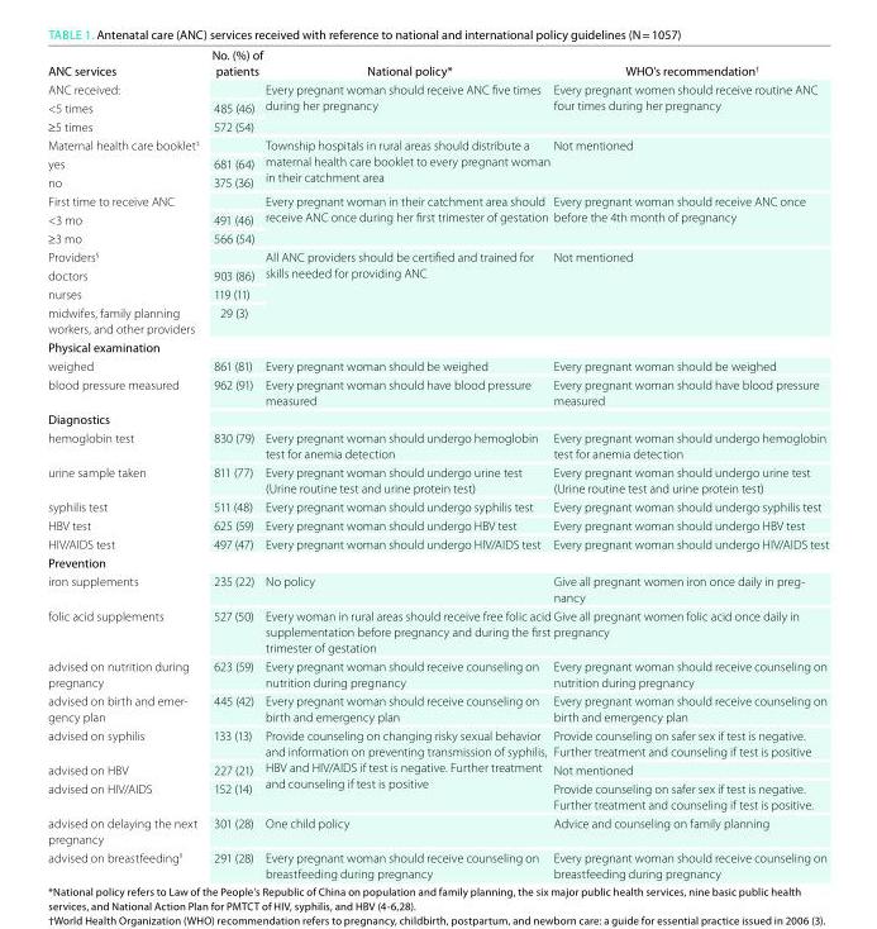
<table><thead><tr><td>aNC services</td><td>No. (%) of patients</td><td>National policy*</td><td>WHo’s recommendation<sup>†</sup></td></tr></thead><tbody><tr><td colspan="2">ANC received:</td><td rowspan="3">Every pregnant woman should receive ANC five times during her pregnancy</td><td rowspan="3">Every pregnant women should receive routine ANC four times during her pregnancy</td></tr><tr><td>&lt;5 times</td><td>485 (46)</td></tr><tr><td>≥5 times</td><td>572 (54)</td></tr><tr><td colspan="2">Maternal health care booklet<sup>‡</sup></td><td rowspan="3">Township hospitals in rural areas should distribute a maternal health care booklet to every pregnant woman in their catchment area</td><td rowspan="3">Not mentioned</td></tr><tr><td>yes</td><td>681 (64)</td></tr><tr><td>no</td><td>375 (36)</td></tr><tr><td colspan="2">First time to receive ANC</td><td rowspan="3">Every pregnant woman in their catchment area should receive ANC once during her first trimester of gestation</td><td rowspan="3">Every pregnant woman should receive ANC once before the 4th month of pregnancy</td></tr><tr><td>&lt;3 mo</td><td>491 (46)</td></tr><tr><td>≥3 mo</td><td>566 (54)</td></tr><tr><td colspan="2">Providers<sup>§</sup></td><td rowspan="4">All ANC providers should be certified and trained for skills needed for providing ANC</td><td rowspan="4">Not mentioned</td></tr><tr><td>doctors</td><td>903 (86)</td></tr><tr><td>nurses</td><td>119 (11)</td></tr><tr><td>midwifes, family planning workers, and other providers</td><td>29 (3)</td></tr><tr><td colspan="4">Physical examination</td></tr><tr><td>weighed</td><td>861 (81)</td><td>Every pregnant woman should be weighed</td><td>Every pregnant woman should be weighed</td></tr><tr><td>blood pressure measured</td><td>962 (91)</td><td>Every pregnant woman should have blood pressure measured</td><td>Every pregnant woman should have blood pressure measured</td></tr><tr><td colspan="4">Diagnostics</td></tr><tr><td>hemoglobin test</td><td>830 (79)</td><td>Every pregnant woman should undergo hemoglobin test for anemia detection</td><td>Every pregnant woman should undergo hemoglobin test for anemia detection</td></tr><tr><td>urine sample taken</td><td>811 (77)</td><td>Every pregnant woman should undergo urine test (Urine routine test and urine protein test)</td><td>Every pregnant woman should undergo urine test (Urine routine test and urine protein test)</td></tr><tr><td>syphilis test</td><td>511 (48)</td><td>Every pregnant woman should undergo syphilis test</td><td>Every pregnant woman should undergo syphilis test</td></tr><tr><td>HBV test</td><td>625 (59)</td><td>Every pregnant woman should undergo HBV test</td><td>Every pregnant woman should undergo HBV test</td></tr><tr><td>HIV/AIDS test</td><td>497 (47)</td><td>Every pregnant woman should undergo HIV/AIDS test</td><td>Every pregnant woman should undergo HIV/AIDS test</td></tr><tr><td colspan="4">Prevention</td></tr><tr><td>iron supplements</td><td>235 (22)</td><td>No policy</td><td>Give all pregnant women iron once daily in preg- nancy</td></tr><tr><td>folic acid supplements</td><td>527 (50)</td><td>Every woman in rural areas should receive free folic acid supplementation before pregnancy and during the first trimester of gestation</td><td>Give all pregnant women folic acid once daily in pregnancy</td></tr><tr><td>advised on nutrition during pregnancy</td><td>623 (59)</td><td>Every pregnant woman should receive counseling on nutrition during pregnancy</td><td>Every pregnant woman should receive counseling on nutrition during pregnancy</td></tr><tr><td>advised on birth and emer- gency plan</td><td>445 (42)</td><td>Every pregnant woman should receive counseling on birth and emergency plan</td><td>Every pregnant woman should receive counseling on birth and emergency plan</td></tr><tr><td>advised on syphilis</td><td>133 (13)</td><td rowspan="3">Provide counseling on changing risky sexual behavior and information on preventing transmission of syphilis, HBV and HIV/AIDS if test is negative. Further treatment and counseling if test is positive</td><td>Provide counseling on safer sex if test is negative. Further treatment and counseling if test is positive</td></tr><tr><td>advised on HBV</td><td>227 (21)</td><td>Not mentioned</td></tr><tr><td>advised on HIV/AIDS</td><td>152 (14)</td><td>Provide counseling on safer sex if test is negative. Further treatment and counseling if test is positive.</td></tr><tr><td>advised on delaying the next pregnancy</td><td>301 (28)</td><td>One child policy</td><td>Advice and counseling on family planning</td></tr><tr><td>advised on breastfeeding<sup>II</sup></td><td>291 (28)</td><td>Every pregnant woman should receive counseling on breastfeeding during pregnancy</td><td>Every pregnant woman should receive counseling on breastfeeding during pregnancy</td></tr></tbody></table>